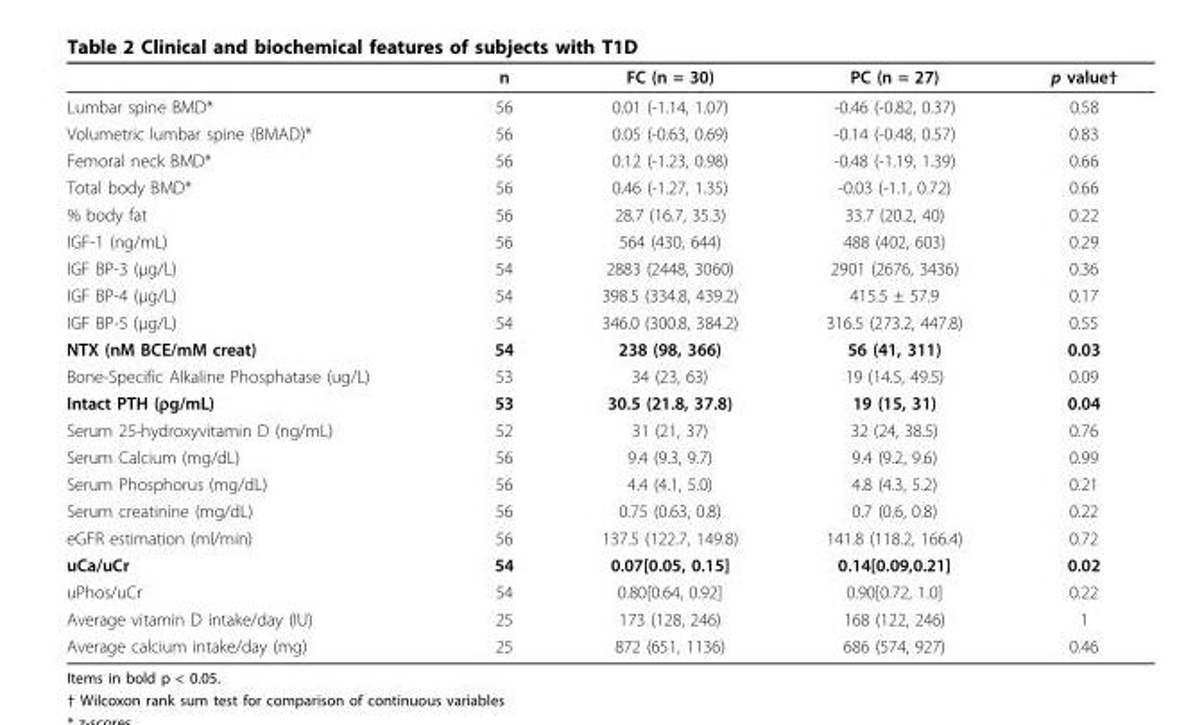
<table><thead><tr><td></td><td>n</td><td>FC (n = 30)</td><td>PC (n = 27)</td><td>p value†</td></tr></thead><tbody><tr><td>Lumbar spine BMD*</td><td>56</td><td>0.01 (-1.14, 1.07)</td><td>-0.46 (-0.82, 0.37)</td><td>0.58</td></tr><tr><td>Volumetric lumbar spine (BMAD)*</td><td>56</td><td>0.05 (-0.63, 0.69)</td><td>-0.14 (-0.48, 0.57)</td><td>0.83</td></tr><tr><td>Femoral neck BMD*</td><td>56</td><td>0.12 (-1.23, 0.98)</td><td>-0.48 (-1.19, 1.39)</td><td>0.66</td></tr><tr><td>Total body BMD*</td><td>56</td><td>0.46 (-1.27, 1.35)</td><td>-0.03 (-1.1, 0.72)</td><td>0.66</td></tr><tr><td>% body fat</td><td>56</td><td>28.7 (16.7, 35.3)</td><td>33.7 (20.2, 40)</td><td>0.22</td></tr><tr><td>IGF-1 (ng/mL)</td><td>56</td><td>564 (430, 644)</td><td>488 (402, 603)</td><td>0.29</td></tr><tr><td>IGF BP-3 (μg/L)</td><td>54</td><td>2883 (2448, 3060)</td><td>2901 (2676, 3436)</td><td>0.36</td></tr><tr><td>IGF BP-4 (μg/L)</td><td>54</td><td>398.5 (334.8, 439.2)</td><td>415.5 ± 57.9</td><td>0.17</td></tr><tr><td>IGF BP-5 (μg/L)</td><td>54</td><td>346.0 (300.8, 384.2)</td><td>316.5 (273.2, 447.8)</td><td>0.55</td></tr><tr><td>NTX (nM BCE/mM creat)</td><td>54</td><td>238 (98, 366)</td><td>56 (41, 311)</td><td>0.03</td></tr><tr><td>Bone-Specific Alkaline Phosphatase (ug/L)</td><td>53</td><td>34 (23, 63)</td><td>19 (14.5, 49.5)</td><td>0.09</td></tr><tr><td>Intact PTH (ρg/mL)</td><td>53</td><td>30.5 (21.8, 37.8)</td><td>19 (15, 31)</td><td>0.04</td></tr><tr><td>Serum 25-hydroxyvitamin D (ng/mL)</td><td>52</td><td>31 (21, 37)</td><td>32 (24, 38.5)</td><td>0.76</td></tr><tr><td>Serum Calcium (mg/dL)</td><td>56</td><td>9.4 (9.3, 9.7)</td><td>9.4 (9.2, 9.6)</td><td>0.99</td></tr><tr><td>Serum Phosphorus (mg/dL)</td><td>56</td><td>4.4 (4.1, 5.0)</td><td>4.8 (4.3, 5.2)</td><td>0.21</td></tr><tr><td>Serum creatinine (mg/dL)</td><td>56</td><td>0.75 (0.63, 0.8)</td><td>0.7 (0.6, 0.8)</td><td>0.22</td></tr><tr><td>eGFR estimation (ml/min)</td><td>56</td><td>137.5 (122.7, 149.8)</td><td>141.8 (118.2, 166.4)</td><td>0.72</td></tr><tr><td>uCa/uCr</td><td>54</td><td>0.07[0.05, 0.15]</td><td>0.14[0.09,0.21]</td><td>0.02</td></tr><tr><td>uPhos/uCr</td><td>54</td><td>0.80[0.64, 0.92]</td><td>0.90[0.72, 1.0]</td><td>0.22</td></tr><tr><td>Average vitamin D intake/day (IU)</td><td>25</td><td>173 (128, 246)</td><td>168 (122, 246)</td><td>1</td></tr><tr><td>Average calcium intake/day (mg)</td><td>25</td><td>872 (651, 1136)</td><td>686 (574, 927)</td><td>0.46</td></tr></tbody></table>